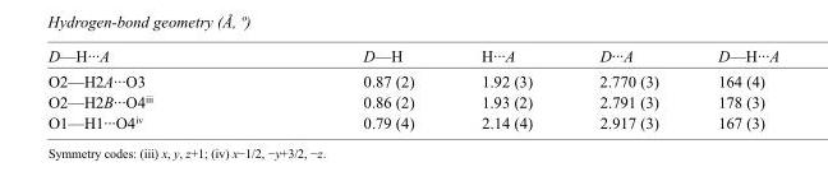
<table><tbody><tr><td>D—H···A</td><td>D—H</td><td>H···A</td><td>D···A</td><td>D—H···A</td></tr><tr><td>O2—H2A···O3</td><td>0.87 (2)</td><td>1.92 (3)</td><td>2.770 (3)</td><td>164 (4)</td></tr><tr><td>O2—H2B···O4<sup>iii</sup></td><td>0.86 (2)</td><td>1.93 (2)</td><td>2.791 (3)</td><td>178 (3)</td></tr><tr><td>O1—H1···O4<sup>iv</sup></td><td>0.79 (4)</td><td>2.14 (4)</td><td>2.917 (3)</td><td>167 (3)</td></tr></tbody></table>